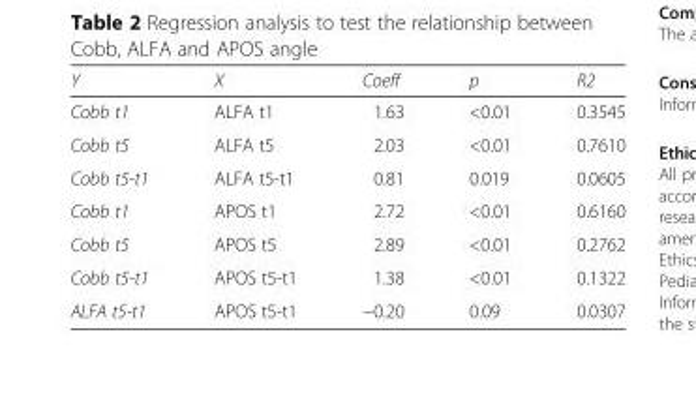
<table><thead><tr><td>Y</td><td>X</td><td>Coeff</td><td>p</td><td>R2</td></tr></thead><tbody><tr><td>Cobb t1</td><td>ALFA t1</td><td>1.63</td><td>&lt;0.01</td><td>0.3545</td></tr><tr><td>Cobb t5</td><td>ALFA t5</td><td>2.03</td><td>&lt;0.01</td><td>0.7610</td></tr><tr><td>Cobb t5-t1</td><td>ALFA t5-t1</td><td>0.81</td><td>0.019</td><td>0.0605</td></tr><tr><td>Cobb t1</td><td>APOS t1</td><td>2.72</td><td>&lt;0.01</td><td>0.6160</td></tr><tr><td>Cobb t5</td><td>APOS t5</td><td>2.89</td><td>&lt;0.01</td><td>0.2762</td></tr><tr><td>Cobb t5-t1</td><td>APOS t5-t1</td><td>1.38</td><td>&lt;0.01</td><td>0.1322</td></tr><tr><td>ALFA t5-t1</td><td>APOS t5-t1</td><td>−0.20</td><td>0.09</td><td>0.0307</td></tr></tbody></table>